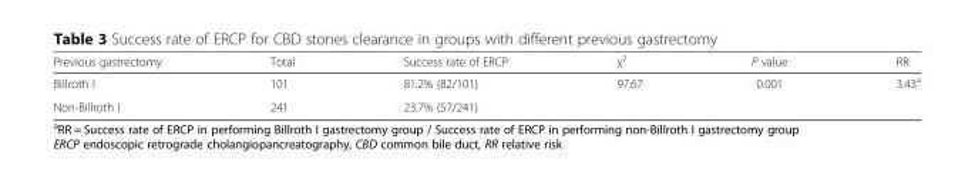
<table><thead><tr><td>Previous gastrectomy</td><td>Total</td><td>Success rate of ERCP</td><td>χ<sup>2</sup></td><td>P value</td><td>RR</td></tr></thead><tbody><tr><td>Billroth I</td><td>101</td><td>81.2% (82/101)</td><td>97.67</td><td>0.001</td><td>3.43<sup>a</sup></td></tr><tr><td>Non-Billroth I</td><td>241</td><td>23.7% (57/241)</td><td></td><td></td><td></td></tr></tbody></table>